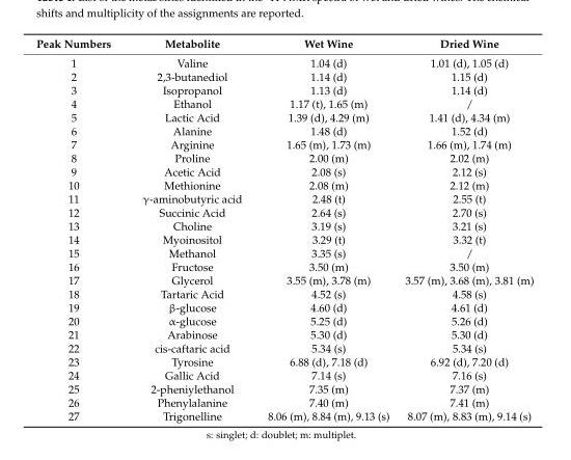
<table><thead><tr><td>Peak Numbers</td><td>Metabolite</td><td>Wet Wine</td><td>Dried Wine</td></tr></thead><tbody><tr><td>1</td><td>Valine</td><td>1.04 (d)</td><td>1.01 (d), 1.05 (d)</td></tr><tr><td>2</td><td>2,3-butanediol</td><td>1.14 (d)</td><td>1.15 (d)</td></tr><tr><td>3</td><td>Isopropanol</td><td>1.13 (d)</td><td>1.14 (d)</td></tr><tr><td>4</td><td>Ethanol</td><td>1.17 (t), 1.65 (m)</td><td>/</td></tr><tr><td>5</td><td>Lactic Acid</td><td>1.39 (d), 4.29 (m)</td><td>1.41 (d), 4.34 (m)</td></tr><tr><td>6</td><td>Alanine</td><td>1.48 (d)</td><td>1.52 (d)</td></tr><tr><td>7</td><td>Arginine</td><td>1.65 (m), 1.73 (m)</td><td>1.66 (m), 1.74 (m)</td></tr><tr><td>8</td><td>Proline</td><td>2.00 (m)</td><td>2.02 (m)</td></tr><tr><td>9</td><td>Acetic Acid</td><td>2.08 (s)</td><td>2.12 (s)</td></tr><tr><td>10</td><td>Methionine</td><td>2.08 (m)</td><td>2.12 (m)</td></tr><tr><td>11</td><td>γ-aminobutyric acid</td><td>2.48 (t)</td><td>2.55 (t)</td></tr><tr><td>12</td><td>Succinic Acid</td><td>2.64 (s)</td><td>2.70 (s)</td></tr><tr><td>13</td><td>Choline</td><td>3.19 (s)</td><td>3.21 (s)</td></tr><tr><td>14</td><td>Myoinositol</td><td>3.29 (t)</td><td>3.32 (t)</td></tr><tr><td>15</td><td>Methanol</td><td>3.35 (s)</td><td>/</td></tr><tr><td>16</td><td>Fructose</td><td>3.50 (m)</td><td>3.50 (m)</td></tr><tr><td>17</td><td>Glycerol</td><td>3.55 (m), 3.78 (m)</td><td>3.57 (m), 3.68 (m), 3.81 (m)</td></tr><tr><td>18</td><td>Tartaric Acid</td><td>4.52 (s)</td><td>4.58 (s)</td></tr><tr><td>19</td><td>β-glucose</td><td>4.60 (d)</td><td>4.61 (d)</td></tr><tr><td>20</td><td>α-glucose</td><td>5.25 (d)</td><td>5.26 (d)</td></tr><tr><td>21</td><td>Arabinose</td><td>5.30 (d)</td><td>5.30 (d)</td></tr><tr><td>22</td><td>cis-caftaric acid</td><td>5.34 (s)</td><td>5.34 (s)</td></tr><tr><td>23</td><td>Tyrosine</td><td>6.88 (d), 7.18 (d)</td><td>6.92 (d), 7.20 (d)</td></tr><tr><td>24</td><td>Gallic Acid</td><td>7.14 (s)</td><td>7.16 (s)</td></tr><tr><td>25</td><td>2-pheniylethanol</td><td>7.35 (m)</td><td>7.37 (m)</td></tr><tr><td>26</td><td>Phenylalanine</td><td>7.40 (m)</td><td>7.41 (m)</td></tr><tr><td>27</td><td>Trigonelline</td><td>8.06 (m), 8.84 (m), 9.13 (s)</td><td>8.07 (m), 8.83 (m), 9.14 (s)</td></tr></tbody></table>